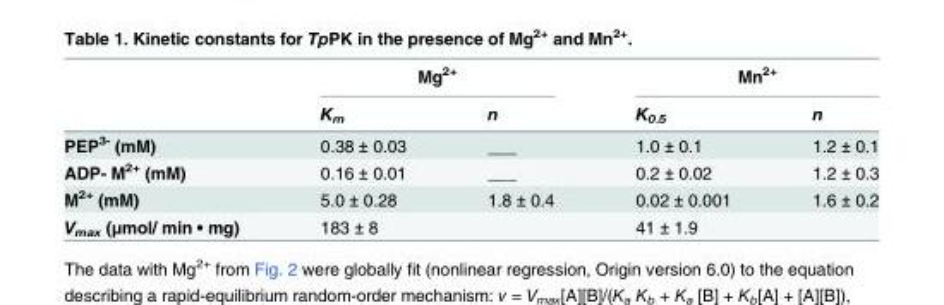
<table><thead><tr><td rowspan="2"></td><td colspan="2">Mg<sup>2+</sup></td><td colspan="2">Mn<sup>2+</sup></td></tr><tr><td>K<sub>m</sub></td><td>n</td><td>K<sub>0.5</sub></td><td>n</td></tr></thead><tbody><tr><td>PEP<sup>3-</sup> (mM)</td><td>0.38 ± 0.03</td><td>___</td><td>1.0 ± 0.1</td><td>1.2 ± 0.1</td></tr><tr><td>ADP- M<sup>2+</sup> (mM)</td><td>0.16 ± 0.01</td><td>___</td><td>0.2 ± 0.02</td><td>1.2 ± 0.3</td></tr><tr><td>M<sup>2+</sup> (mM)</td><td>5.0 ± 0.28</td><td>1.8 ± 0.4</td><td>0.02 ± 0.001</td><td>1.6 ± 0.2</td></tr><tr><td>V<sub>max</sub> (μmol/ min • mg)</td><td colspan="2">183 ± 8</td><td colspan="2">41 ± 1.9</td></tr></tbody></table>